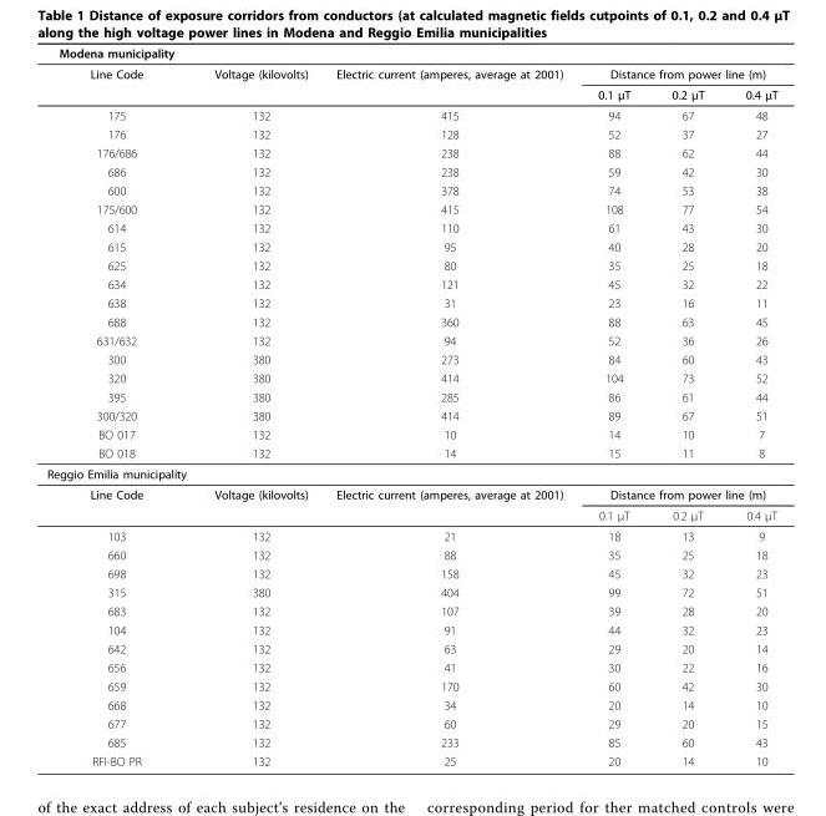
<table><thead><tr><td>Modena municipality</td><td></td><td></td><td></td><td></td><td></td></tr></thead><tbody><tr><td rowspan="2">Line Code</td><td>Voltage (kilovolts)</td><td>Electric current (amperes, average at 2001)</td><td colspan="3">Distance from power line (m)</td></tr><tr><td></td><td></td><td>0.1 μT</td><td>0.2 μT</td><td>0.4 μT</td></tr><tr><td>175</td><td>132</td><td>415</td><td>94</td><td>67</td><td>48</td></tr><tr><td>176</td><td>132</td><td>128</td><td>52</td><td>37</td><td>27</td></tr><tr><td>176/686</td><td>132</td><td>238</td><td>88</td><td>62</td><td>44</td></tr><tr><td>686</td><td>132</td><td>238</td><td>59</td><td>42</td><td>30</td></tr><tr><td>600</td><td>132</td><td>378</td><td>74</td><td>53</td><td>38</td></tr><tr><td>175/600</td><td>132</td><td>415</td><td>108</td><td>77</td><td>54</td></tr><tr><td>614</td><td>132</td><td>110</td><td>61</td><td>43</td><td>30</td></tr><tr><td>615</td><td>132</td><td>95</td><td>40</td><td>28</td><td>20</td></tr><tr><td>625</td><td>132</td><td>80</td><td>35</td><td>25</td><td>18</td></tr><tr><td>634</td><td>132</td><td>121</td><td>45</td><td>32</td><td>22</td></tr><tr><td>638</td><td>132</td><td>31</td><td>23</td><td>16</td><td>11</td></tr><tr><td>688</td><td>132</td><td>360</td><td>88</td><td>63</td><td>45</td></tr><tr><td>631/632</td><td>132</td><td>94</td><td>52</td><td>36</td><td>26</td></tr><tr><td>300</td><td>380</td><td>273</td><td>84</td><td>60</td><td>43</td></tr><tr><td>320</td><td>380</td><td>414</td><td>104</td><td>73</td><td>52</td></tr><tr><td>395</td><td>380</td><td>285</td><td>86</td><td>61</td><td>44</td></tr><tr><td>300/320</td><td>380</td><td>414</td><td>89</td><td>67</td><td>51</td></tr><tr><td>BO 017</td><td>132</td><td>10</td><td>14</td><td>10</td><td>7</td></tr><tr><td>BO 018</td><td>132</td><td>14</td><td>15</td><td>11</td><td>8</td></tr><tr><td colspan="6">Reggio Emilia municipality</td></tr><tr><td rowspan="2">Line Code</td><td>Voltage (kilovolts)</td><td>Electric current (amperes, average at 2001)</td><td colspan="3">Distance from power line (m)</td></tr><tr><td></td><td></td><td>0.1 μT</td><td>0.2 μT</td><td>0.4 μT</td></tr><tr><td>103</td><td>132</td><td>21</td><td>18</td><td>13</td><td>9</td></tr><tr><td>660</td><td>132</td><td>88</td><td>35</td><td>25</td><td>18</td></tr><tr><td>698</td><td>132</td><td>158</td><td>45</td><td>32</td><td>23</td></tr><tr><td>315</td><td>380</td><td>404</td><td>99</td><td>72</td><td>51</td></tr><tr><td>683</td><td>132</td><td>107</td><td>39</td><td>28</td><td>20</td></tr><tr><td>104</td><td>132</td><td>91</td><td>44</td><td>32</td><td>23</td></tr><tr><td>642</td><td>132</td><td>63</td><td>29</td><td>20</td><td>14</td></tr><tr><td>656</td><td>132</td><td>41</td><td>30</td><td>22</td><td>16</td></tr><tr><td>659</td><td>132</td><td>170</td><td>60</td><td>42</td><td>30</td></tr><tr><td>668</td><td>132</td><td>34</td><td>20</td><td>14</td><td>10</td></tr><tr><td>677</td><td>132</td><td>60</td><td>29</td><td>20</td><td>15</td></tr><tr><td>685</td><td>132</td><td>233</td><td>85</td><td>60</td><td>43</td></tr><tr><td>RFI-BO PR</td><td>132</td><td>25</td><td>20</td><td>14</td><td>10</td></tr></tbody></table>